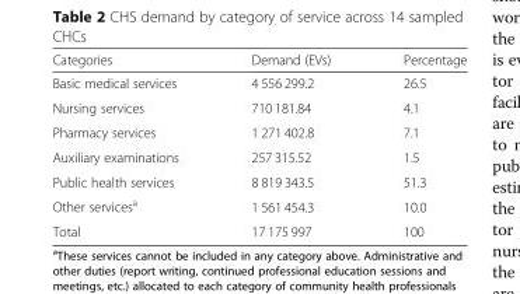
<table><thead><tr><td>Categories</td><td>Demand (EVs)</td><td>Percentage</td></tr></thead><tbody><tr><td>Basic medical services</td><td>4 556 299.2</td><td>26.5</td></tr><tr><td>Nursing services</td><td>710 181.84</td><td>4.1</td></tr><tr><td>Pharmacy services</td><td>1 271 402.8</td><td>7.1</td></tr><tr><td>Auxiliary examinations</td><td>257 315.52</td><td>1.5</td></tr><tr><td>Public health services</td><td>8 819 343.5</td><td>51.3</td></tr><tr><td>Other services<sup>a</sup></td><td>1 561 454.3</td><td>10.0</td></tr><tr><td>Total</td><td>17 175 997</td><td>100</td></tr></tbody></table>